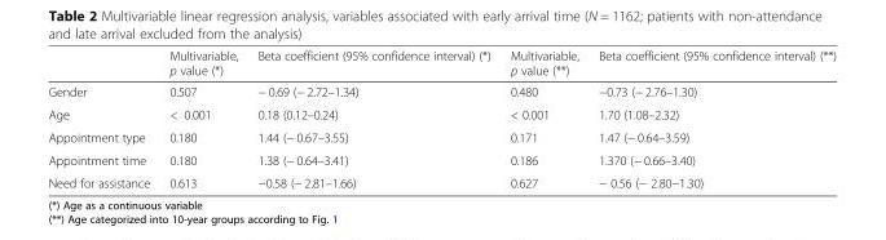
<table><thead><tr><td></td><td>Multivariable, p value (*)</td><td>Beta coefficient (95% confidence interval) (*)</td><td>Multivariable, p value (**)</td><td>Beta coefficient (95% confidence interval) (**)</td></tr></thead><tbody><tr><td>Gender</td><td>0.507</td><td>− 0.69 (− 2.72–1.34)</td><td>0.480</td><td>−0.73 (− 2.76–1.30)</td></tr><tr><td>Age</td><td>&lt; 0.001</td><td>0.18 (0.12–0.24)</td><td>&lt; 0.001</td><td>1.70 (1.08–2.32)</td></tr><tr><td>Appointment type</td><td>0.180</td><td>1.44 (− 0.67–3.55)</td><td>0.171</td><td>1.47 (− 0.64–3.59)</td></tr><tr><td>Appointment time</td><td>0.180</td><td>1.38 (− 0.64–3.41)</td><td>0.186</td><td>1.370 (− 0.66–3.40)</td></tr><tr><td>Need for assistance</td><td>0.613</td><td>−0.58 (− 2.81–1.66)</td><td>0.627</td><td>− 0.56 (− 2.80−1.30)</td></tr></tbody></table>